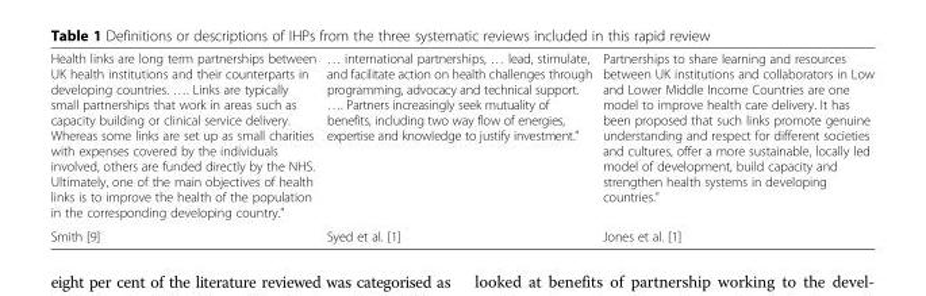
<table><tbody><tr><td>Health links are long term partnerships between UK health institutions and their counterparts in developing countries. …. Links are typically small partnerships that work in areas such as capacity building or clinical service delivery. Whereas some links are set up as small charities with expenses covered by the individuals involved, others are funded directly by the NHS. Ultimately, one of the main objectives of health links is to improve the health of the population in the corresponding developing country.”</td><td>… international partnerships, … lead, stimulate, and facilitate action on health challenges through programming, advocacy and technical support. …. Partners increasingly seek mutuality of benefits, including two way flow of energies, expertise and knowledge to justify investment.”</td><td>Partnerships to share learning and resources between UK institutions and collaborators in Low and Lower Middle Income Countries are one model to improve health care delivery. It has been proposed that such links promote genuine understanding and respect for different societies and cultures, offer a more sustainable, locally led model of development, build capacity and strengthen health systems in developing countries.”</td></tr><tr><td>Smith [9]</td><td>Syed et al. [1]</td><td>Jones et al. [1]</td></tr></tbody></table>